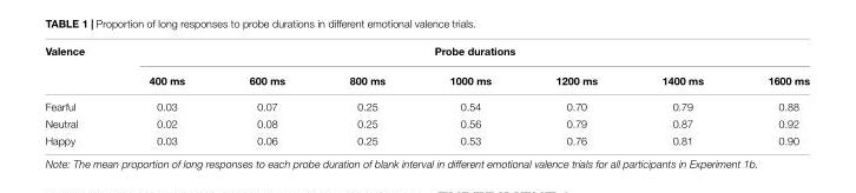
<table><thead><tr><td rowspan="2">Valence</td><td colspan="7">Probe durations</td></tr><tr><td>400 ms</td><td>600 ms</td><td>800 ms</td><td>1000 ms</td><td>1200 ms</td><td>1400 ms</td><td>1600 ms</td></tr></thead><tbody><tr><td>Fearful</td><td>0.03</td><td>0.07</td><td>0.25</td><td>0.54</td><td>0.70</td><td>0.79</td><td>0.88</td></tr><tr><td>Neutral</td><td>0.02</td><td>0.08</td><td>0.25</td><td>0.56</td><td>0.79</td><td>0.87</td><td>0.92</td></tr><tr><td>Happy</td><td>0.03</td><td>0.06</td><td>0.25</td><td>0.53</td><td>0.76</td><td>0.81</td><td>0.90</td></tr></tbody></table>